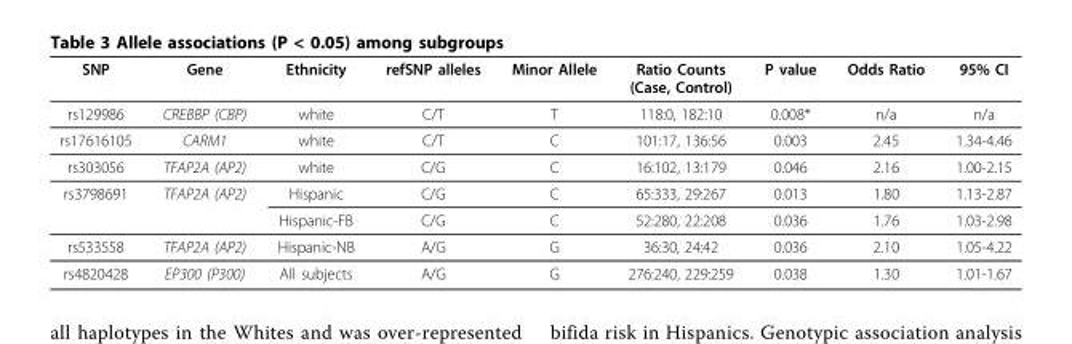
<table><thead><tr><td>SNP</td><td>Gene</td><td>Ethnicity</td><td>refSNP alleles</td><td>Minor Allele</td><td>Ratio Counts (Case, Control)</td><td>P value</td><td>Odds Ratio</td><td>95% CI</td></tr></thead><tbody><tr><td>rs129986</td><td>CREBBP (CBP)</td><td>white</td><td>C/T</td><td>T</td><td>118:0, 182:10</td><td>0.008*</td><td>n/a</td><td>n/a</td></tr><tr><td>rs17616105</td><td>CARM1</td><td>white</td><td>C/T</td><td>C</td><td>101:17, 136:56</td><td>0.003</td><td>2.45</td><td>1.34-4.46</td></tr><tr><td>rs303056</td><td>TFAP2A (AP2)</td><td>white</td><td>C/G</td><td>C</td><td>16:102, 13:179</td><td>0.046</td><td>2.16</td><td>1.00-2.15</td></tr><tr><td rowspan="2">rs3798691</td><td>TFAP2A (AP2)</td><td>Hispanic</td><td>C/G</td><td>C</td><td>65:333, 29:267</td><td>0.013</td><td>1.80</td><td>1.13-2.87</td></tr><tr><td></td><td>Hispanic-FB</td><td>C/G</td><td>C</td><td>52:280, 22:208</td><td>0.036</td><td>1.76</td><td>1.03-2.98</td></tr><tr><td>rs533558</td><td>TFAP2A (AP2)</td><td>Hispanic-NB</td><td>A/G</td><td>G</td><td>36:30, 24:42</td><td>0.036</td><td>2.10</td><td>1.05-4.22</td></tr><tr><td>rs4820428</td><td>EP300 (P300)</td><td>All subjects</td><td>A/G</td><td>G</td><td>276:240, 229:259</td><td>0.038</td><td>1.30</td><td>1.01-1.67</td></tr></tbody></table>